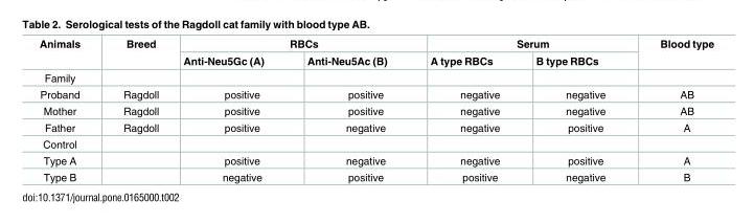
<table><thead><tr><td rowspan="2">Animals</td><td rowspan="2">Breed</td><td colspan="2">RBCs</td><td colspan="2">Serum</td><td rowspan="2">Blood type</td></tr><tr><td>Anti-Neu5Gc (A)</td><td>Anti-Neu5Ac (B)</td><td>A type RBCs</td><td>B type RBCs</td></tr></thead><tbody><tr><td colspan="7">Family</td></tr><tr><td>Proband</td><td>Ragdoll</td><td>positive</td><td>positive</td><td>negative</td><td>negative</td><td>AB</td></tr><tr><td>Mother</td><td>Ragdoll</td><td>positive</td><td>positive</td><td>negative</td><td>negative</td><td>AB</td></tr><tr><td>Father</td><td>Ragdoll</td><td>positive</td><td>negative</td><td>negative</td><td>positive</td><td>A</td></tr><tr><td colspan="7">Control</td></tr><tr><td>Type A</td><td></td><td>positive</td><td>negative</td><td>negative</td><td>positive</td><td>A</td></tr><tr><td>Type B</td><td></td><td>negative</td><td>positive</td><td>positive</td><td>negative</td><td>B</td></tr></tbody></table>